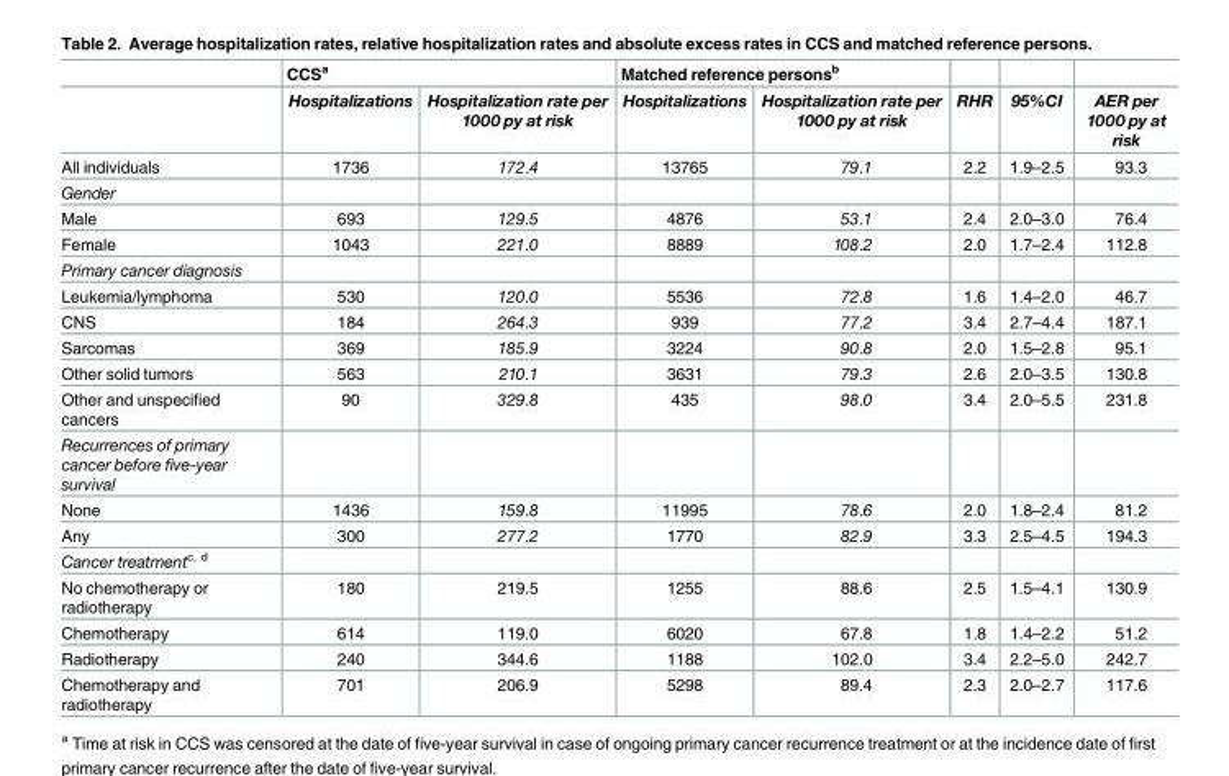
<table><thead><tr><td rowspan="2"></td><td colspan="2">CCS<sup>a</sup></td><td colspan="2">Matched reference persons<sup>b</sup></td><td rowspan="2">RHR</td><td rowspan="2">95%CI</td><td rowspan="2">AER per 1000 py at risk</td></tr><tr><td>Hospitalizations</td><td>Hospitalization rate per 1000 py at risk</td><td>Hospitalizations</td><td>Hospitalization rate per 1000 py at risk</td></tr></thead><tbody><tr><td>All individuals</td><td>1736</td><td>172.4</td><td>13765</td><td>79.1</td><td>2.2</td><td>1.9–2.5</td><td>93.3</td></tr><tr><td colspan="8">Gender</td></tr><tr><td>Male</td><td>693</td><td>129.5</td><td>4876</td><td>53.1</td><td>2.4</td><td>2.0–3.0</td><td>76.4</td></tr><tr><td>Female</td><td>1043</td><td>221.0</td><td>8889</td><td>108.2</td><td>2.0</td><td>1.7–2.4</td><td>112.8</td></tr><tr><td colspan="8">Primary cancer diagnosis</td></tr><tr><td>Leukemia/lymphoma</td><td>530</td><td>120.0</td><td>5536</td><td>72.8</td><td>1.6</td><td>1.4–2.0</td><td>46.7</td></tr><tr><td>CNS</td><td>184</td><td>264.3</td><td>939</td><td>77.2</td><td>3.4</td><td>2.7–4.4</td><td>187.1</td></tr><tr><td>Sarcomas</td><td>369</td><td>185.9</td><td>3224</td><td>90.8</td><td>2.0</td><td>1.5–2.8</td><td>95.1</td></tr><tr><td>Other solid tumors</td><td>563</td><td>210.1</td><td>3631</td><td>79.3</td><td>2.6</td><td>2.0–3.5</td><td>130.8</td></tr><tr><td>Other and unspecified cancers</td><td>90</td><td>329.8</td><td>435</td><td>98.0</td><td>3.4</td><td>2.0–5.5</td><td>231.8</td></tr><tr><td colspan="8">Recurrences of primary cancer before five-year survival</td></tr><tr><td>None</td><td>1436</td><td>159.8</td><td>11995</td><td>78.6</td><td>2.0</td><td>1.8–2.4</td><td>81.2</td></tr><tr><td>Any</td><td>300</td><td>277.2</td><td>1770</td><td>82.9</td><td>3.3</td><td>2.5–4.5</td><td>194.3</td></tr><tr><td colspan="8">Cancer treatment<sup>c, d</sup></td></tr><tr><td>No chemotherapy or radiotherapy</td><td>180</td><td>219.5</td><td>1255</td><td>88.6</td><td>2.5</td><td>1.5–4.1</td><td>130.9</td></tr><tr><td>Chemotherapy</td><td>614</td><td>119.0</td><td>6020</td><td>67.8</td><td>1.8</td><td>1.4–2.2</td><td>51.2</td></tr><tr><td>Radiotherapy</td><td>240</td><td>344.6</td><td>1188</td><td>102.0</td><td>3.4</td><td>2.2–5.0</td><td>242.7</td></tr><tr><td>Chemotherapy and radiotherapy</td><td>701</td><td>206.9</td><td>5298</td><td>89.4</td><td>2.3</td><td>2.0–2.7</td><td>117.6</td></tr></tbody></table>